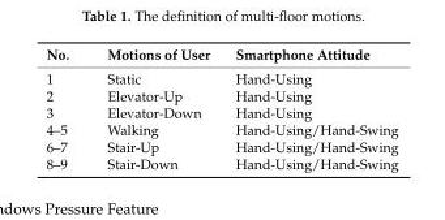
<table><thead><tr><td>No.</td><td>Motions of User</td><td>Smartphone Attitude</td></tr></thead><tbody><tr><td>1</td><td>Static</td><td>Hand-Using</td></tr><tr><td>2</td><td>Elevator-Up</td><td>Hand-Using</td></tr><tr><td>3</td><td>Elevator-Down</td><td>Hand-Using</td></tr><tr><td>4–5</td><td>Walking</td><td>Hand-Using/Hand-Swing</td></tr><tr><td>6–7</td><td>Stair-Up</td><td>Hand-Using/Hand-Swing</td></tr><tr><td>8–9</td><td>Stair-Down</td><td>Hand-Using/Hand-Swing</td></tr></tbody></table>